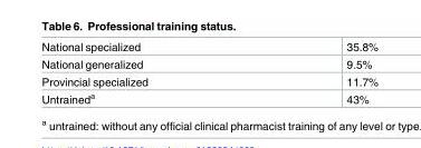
<table><tbody><tr><td>National specialized</td><td>35.8%</td></tr><tr><td>National generalized</td><td>9.5%</td></tr><tr><td>Provincial specialized</td><td>11.7%</td></tr><tr><td>Untrained<sup>a</sup></td><td>43%</td></tr></tbody></table>